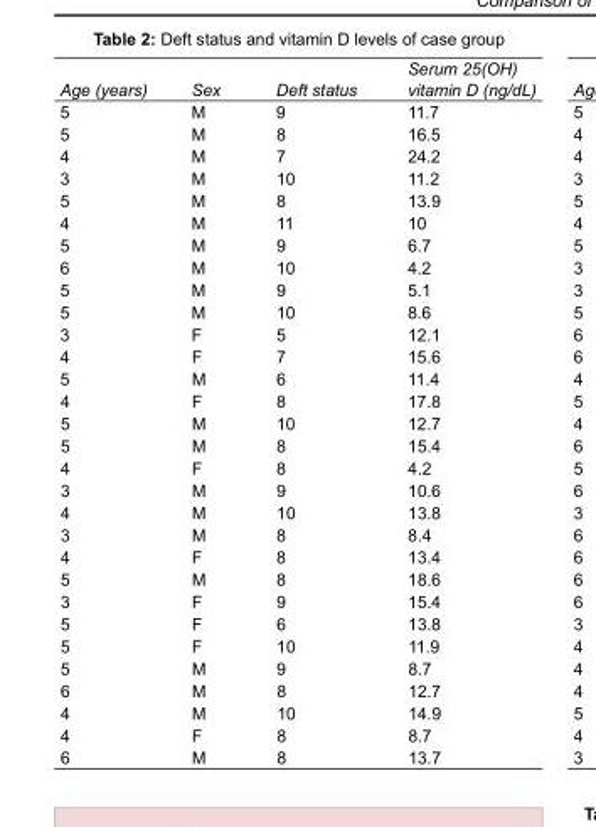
<table><tbody><tr><td>Age (years)</td><td>Sex</td><td>Deft status</td><td>Serum 25(OH) vitamin D (ng/dL)</td></tr><tr><td>5</td><td>M</td><td>9</td><td>11.7</td></tr><tr><td>5</td><td>M</td><td>8</td><td>16.5</td></tr><tr><td>4</td><td>M</td><td>7</td><td>24.2</td></tr><tr><td>3</td><td>M</td><td>10</td><td>11.2</td></tr><tr><td>5</td><td>M</td><td>8</td><td>13.9</td></tr><tr><td>4</td><td>M</td><td>11</td><td>10</td></tr><tr><td>5</td><td>M</td><td>9</td><td>6.7</td></tr><tr><td>6</td><td>M</td><td>10</td><td>4.2</td></tr><tr><td>5</td><td>M</td><td>9</td><td>5.1</td></tr><tr><td>5</td><td>M</td><td>10</td><td>8.6</td></tr><tr><td>3</td><td>F</td><td>5</td><td>12.1</td></tr><tr><td>4</td><td>F</td><td>7</td><td>15.6</td></tr><tr><td>5</td><td>M</td><td>6</td><td>11.4</td></tr><tr><td>4</td><td>F</td><td>8</td><td>17.8</td></tr><tr><td>5</td><td>M</td><td>10</td><td>12.7</td></tr><tr><td>5</td><td>M</td><td>8</td><td>15.4</td></tr><tr><td>4</td><td>F</td><td>8</td><td>4.2</td></tr><tr><td>3</td><td>M</td><td>9</td><td>10.6</td></tr><tr><td>4</td><td>M</td><td>10</td><td>13.8</td></tr><tr><td>3</td><td>M</td><td>8</td><td>8.4</td></tr><tr><td>4</td><td>F</td><td>8</td><td>13.4</td></tr><tr><td>5</td><td>M</td><td>8</td><td>18.6</td></tr><tr><td>3</td><td>F</td><td>9</td><td>15.4</td></tr><tr><td>5</td><td>F</td><td>6</td><td>13.8</td></tr><tr><td>5</td><td>F</td><td>10</td><td>11.9</td></tr><tr><td>5</td><td>M</td><td>9</td><td>8.7</td></tr><tr><td>6</td><td>M</td><td>8</td><td>12.7</td></tr><tr><td>4</td><td>M</td><td>10</td><td>14.9</td></tr><tr><td>4</td><td>F</td><td>8</td><td>8.7</td></tr><tr><td>6</td><td>M</td><td>8</td><td>13.7</td></tr></tbody></table>